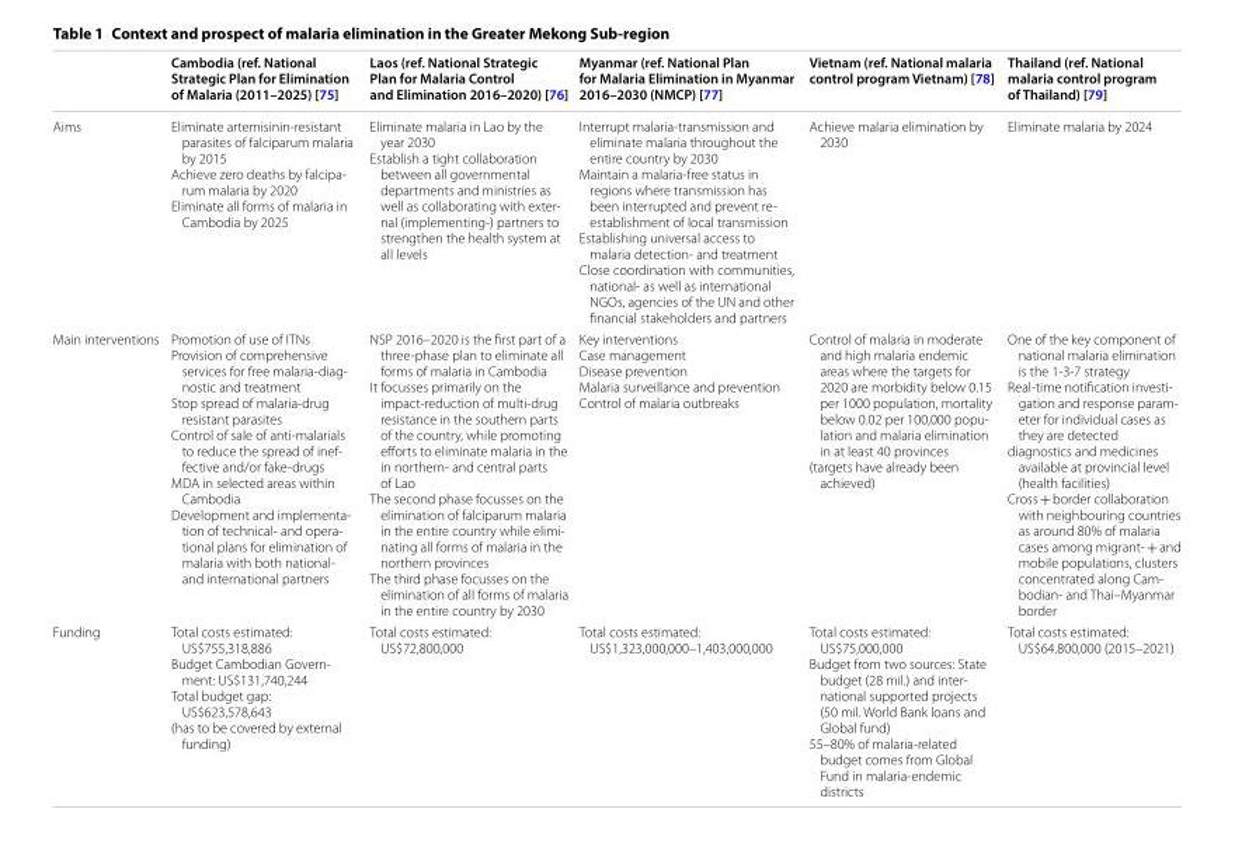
<table><thead><tr><td></td><td>Cambodia (ref. National Strategic Plan for Elimination of Malaria (2011–2025) [75]</td><td>Laos (ref. National Strategic Plan for Malaria Control and Elimination 2016–2020) [76]</td><td>Myanmar (ref. National Plan for Malaria Elimination in Myanmar 2016–2030 (NMCP) [77]</td><td>Vietnam (ref. National malaria control program Vietnam) [78]</td><td>Thailand (ref. National malaria control program of Thailand) [79]</td></tr></thead><tbody><tr><td>Aims</td><td>Eliminate artemisinin-resistant parasites of falciparum malaria by 2015 Achieve zero deaths by falcipa- rum malaria by 2020 Eliminate all forms of malaria in Cambodia by 2025</td><td>Eliminate malaria in Lao by the year 2030 Establish a tight collaboration between all governmental departments and ministries as well as collaborating with exter- nal (implementing-) partners to strengthen the health system at all levels</td><td>Interrupt malaria-transmission and eliminate malaria throughout the entire country by 2030 Maintain a malaria-free status in regions where transmission has been interrupted and prevent re- establishment of local transmission Establishing universal access to malaria detection- and treatment Close coordination with communities, national- as well as international NGOs, agencies of the UN and other financial stakeholders and partners</td><td>Achieve malaria elimination by 2030</td><td>Eliminate malaria by 2024</td></tr><tr><td>Main interventions</td><td>Promotion of use of ITNs Provision of comprehensive services for free malaria-diag- nostic and treatment Stop spread of malaria-drug resistant parasites Control of sale of anti-malarials to reduce the spread of inef- fective and/or fake-drugs MDA in selected areas within Cambodia Development and implementa- tion of technical- and opera- tional plans for elimination of malaria with both national- and international partners</td><td>NSP 2016–2020 is the first part of a three-phase plan to eliminate all forms of malaria in Cambodia It focusses primarily on the impact-reduction of multi-drug resistance in the southern parts of the country, while promoting efforts to eliminate malaria in the in northern- and central parts of Lao The second phase focusses on the elimination of falciparum malaria in the entire country while elimi- nating all forms of malaria in the northern provinces The third phase focusses on the elimination of all forms of malaria in the entire country by 2030</td><td>Key interventions Case management Disease prevention Malaria surveillance and prevention Control of malaria outbreaks</td><td>Control of malaria in moderate and high malaria endemic areas where the targets for 2020 are morbidity below 0.15 per 1000 population, mortality below 0.02 per 100,000 popu- lation and malaria elimination in at least 40 provinces (targets have already been achieved)</td><td>One of the key component of national malaria elimination is the 1-3-7 strategy Real-time notification investi- gation and response param- eter for individual cases as they are detected diagnostics and medicines available at provincial level (health facilities) Cross + border collaboration with neighbouring countries as around 80% of malaria cases among migrant- + and mobile populations, clusters concentrated along Cam- bodian- and Thai–Myanmar border</td></tr><tr><td>Funding</td><td>Total costs estimated: US$755,318,886 Budget Cambodian Govern- ment: US$131,740,244 Total budget gap: US$623,578,643 (has to be covered by external funding)</td><td>Total costs estimated: US$72,800,000</td><td>Total costs estimated: US$1,323,000,000–1,403,000,000</td><td>Total costs estimated: US$75,000,000 Budget from two sources: State budget (28 mil.) and inter- national supported projects (50 mil. World Bank loans and Global fund) 55–80% of malaria-related budget comes from Global Fund in malaria-endemic districts</td><td>Total costs estimated: US$64.800,000 (2015–2021)</td></tr></tbody></table>